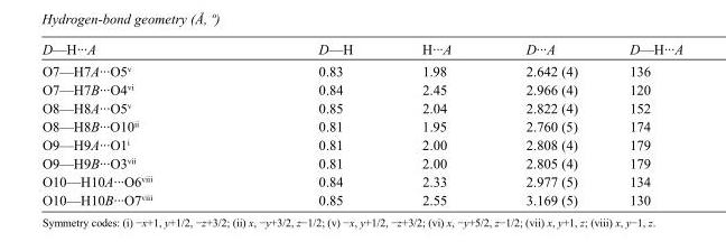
<table><tbody><tr><td>D—H···A</td><td>D—H</td><td>H···A</td><td>D···A</td><td>D—H···A</td></tr><tr><td>O7—H7A···O5<sup>v</sup></td><td>0.83</td><td>1.98</td><td>2.642 (4)</td><td>136</td></tr><tr><td>O7—H7B···O4<sup>vi</sup></td><td>0.84</td><td>2.45</td><td>2.966 (4)</td><td>120</td></tr><tr><td>O8—H8A···O5<sup>v</sup></td><td>0.85</td><td>2.04</td><td>2.822 (4)</td><td>152</td></tr><tr><td>O8—H8B···O10<sup>ii</sup></td><td>0.81</td><td>1.95</td><td>2.760 (5)</td><td>174</td></tr><tr><td>O9—H9A···O1<sup>i</sup></td><td>0.81</td><td>2.00</td><td>2.808 (4)</td><td>179</td></tr><tr><td>O9—H9B···O3<sup>vii</sup></td><td>0.81</td><td>2.00</td><td>2.805 (4)</td><td>179</td></tr><tr><td>O10—H10A···O6<sup>viii</sup></td><td>0.84</td><td>2.33</td><td>2.977 (5)</td><td>134</td></tr><tr><td>O10—H10B···O7<sup>viii</sup></td><td>0.85</td><td>2.55</td><td>3.169 (5)</td><td>130</td></tr></tbody></table>